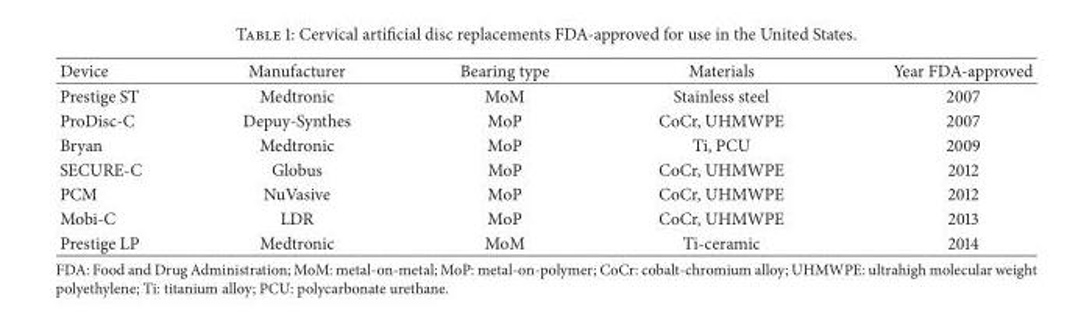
<table><thead><tr><td>Device</td><td>Manufacturer</td><td>Bearing type</td><td>Materials</td><td>Year FDA-approved</td></tr></thead><tbody><tr><td>Prestige ST</td><td>Medtronic</td><td>MoM</td><td>Stainless steel</td><td>2007</td></tr><tr><td>ProDisc-C</td><td>Depuy-Synthes</td><td>MoP</td><td>CoCr, UHMWPE</td><td>2007</td></tr><tr><td>Bryan</td><td>Medtronic</td><td>MoP</td><td>Ti, PCU</td><td>2009</td></tr><tr><td>SECURE-C</td><td>Globus</td><td>MoP</td><td>CoCr, UHMWPE</td><td>2012</td></tr><tr><td>PCM</td><td>NuVasive</td><td>MoP</td><td>CoCr, UHMWPE</td><td>2012</td></tr><tr><td>Mobi-C</td><td>LDR</td><td>MoP</td><td>CoCr, UHMWPE</td><td>2013</td></tr><tr><td>Prestige LP</td><td>Medtronic</td><td>MoM</td><td>Ti-ceramic</td><td>2014</td></tr></tbody></table>